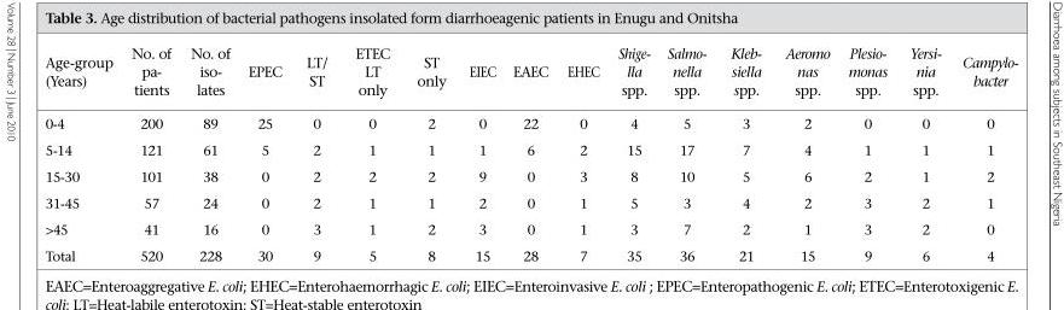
<table><thead><tr><td>Age-group (Years)</td><td>No. of pa- tients</td><td>No. of iso- lates</td><td>EPEC</td><td>LT/ ST</td><td>ETEC LT only</td><td>ST only</td><td>EIEC</td><td>EAEC</td><td>EHEC</td><td>Shige- lla spp.</td><td>Salmo- nella spp.</td><td>Kleb- siella spp.</td><td>Aeromo nas spp.</td><td>Plesio- monas spp.</td><td>Yersi- nia spp.</td><td>Campylo- bacter</td></tr></thead><tbody><tr><td>0-4</td><td>200</td><td>89</td><td>25</td><td>0</td><td>0</td><td>2</td><td>0</td><td>22</td><td>0</td><td>4</td><td>5</td><td>3</td><td>2</td><td>0</td><td>0</td><td>0</td></tr><tr><td>5-14</td><td>121</td><td>61</td><td>5</td><td>2</td><td>1</td><td>1</td><td>1</td><td>6</td><td>2</td><td>15</td><td>17</td><td>7</td><td>4</td><td>1</td><td>1</td><td>1</td></tr><tr><td>15-30</td><td>101</td><td>38</td><td>0</td><td>2</td><td>2</td><td>2</td><td>9</td><td>0</td><td>3</td><td>8</td><td>10</td><td>5</td><td>6</td><td>2</td><td>1</td><td>2</td></tr><tr><td>31-45</td><td>57</td><td>24</td><td>0</td><td>2</td><td>1</td><td>1</td><td>2</td><td>0</td><td>1</td><td>5</td><td>3</td><td>4</td><td>2</td><td>3</td><td>2</td><td>1</td></tr><tr><td>&gt;45</td><td>41</td><td>16</td><td>0</td><td>3</td><td>1</td><td>2</td><td>3</td><td>0</td><td>1</td><td>3</td><td>7</td><td>2</td><td>1</td><td>3</td><td>2</td><td>0</td></tr><tr><td>Total</td><td>520</td><td>228</td><td>30</td><td>9</td><td>5</td><td>8</td><td>15</td><td>28</td><td>7</td><td>35</td><td>36</td><td>21</td><td>15</td><td>9</td><td>6</td><td>4</td></tr></tbody></table>